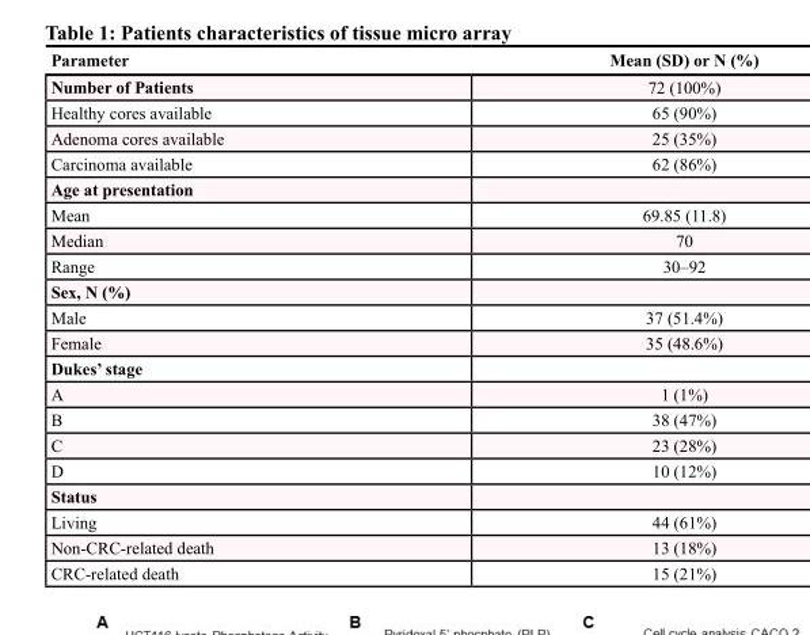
<table><thead><tr><td>Parameter</td><td>Mean (SD) or N (%)</td></tr></thead><tbody><tr><td>Number of Patients</td><td>72 (100%)</td></tr><tr><td>Healthy cores available</td><td>65 (90%)</td></tr><tr><td>Adenoma cores available</td><td>25 (35%)</td></tr><tr><td>Carcinoma available</td><td>62 (86%)</td></tr><tr><td colspan="2">Age at presentation</td></tr><tr><td>Mean</td><td>69.85 (11.8)</td></tr><tr><td>Median</td><td>70</td></tr><tr><td>Range</td><td>30–92</td></tr><tr><td colspan="2">Sex, N (%)</td></tr><tr><td>Male</td><td>37 (51.4%)</td></tr><tr><td>Female</td><td>35 (48.6%)</td></tr><tr><td colspan="2">Dukes’ stage</td></tr><tr><td>A</td><td>1 (1%)</td></tr><tr><td>B</td><td>38 (47%)</td></tr><tr><td>C</td><td>23 (28%)</td></tr><tr><td>D</td><td>10 (12%)</td></tr><tr><td colspan="2">Status</td></tr><tr><td>Living</td><td>44 (61%)</td></tr><tr><td>Non-CRC-related death</td><td>13 (18%)</td></tr><tr><td>CRC-related death</td><td>15 (21%)</td></tr></tbody></table>